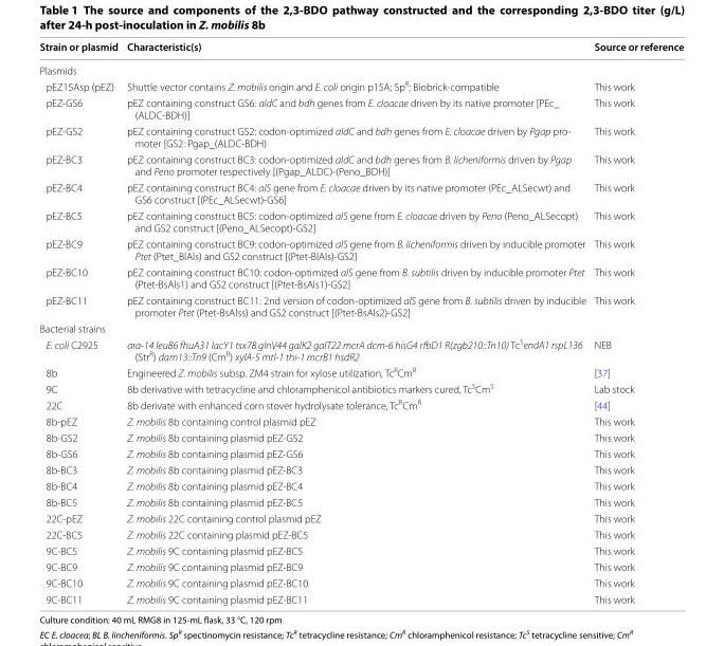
<table><thead><tr><td>Strain or plasmid</td><td>Characteristic(s)</td><td>Source or reference</td></tr></thead><tbody><tr><td colspan="3">Plasmids</td></tr><tr><td>pEZ15Asp (pEZ)</td><td>Shuttle vector contains Z. mobilis origin and E. coli origin p15A; Sp<sup>R</sup>; Biobrick‑compatible</td><td>This work</td></tr><tr><td>pEZ‑GS6</td><td>pEZ containing construct GS6: aldC and bdh genes from E. cloacae driven by its native promoter [PEc_ (ALDC‑BDH)]</td><td>This work</td></tr><tr><td>pEZ‑GS2</td><td>pEZ containing construct GS2: codon‑optimized aldC and bdh genes from E. cloacae driven by Pgap pro‑ moter [GS2: Pgap_(ALDC‑BDH)</td><td>This work</td></tr><tr><td>pEZ‑BC3</td><td>pEZ containing construct BC3: codon‑optimized aldC and bdh genes from B. licheniformis driven by Pgap and Peno promoter respectively [(Pgap_ALDC)‑(Peno_BDH)]</td><td>This work</td></tr><tr><td>pEZ‑BC4</td><td>pEZ containing construct BC4: alS gene from E. cloacae driven by its native promoter (PEc_ALSecwt) and GS6 construct [(PEc_ALSecwt)‑GS6]</td><td>This work</td></tr><tr><td>pEZ‑BC5</td><td>pEZ containing construct BC5: codon‑optimized alS gene from E. cloacae driven by Peno (Peno_ALSecopt) and GS2 construct [(Peno_ALSecopt)‑GS2]</td><td>This work</td></tr><tr><td>pEZ‑BC9</td><td>pEZ containing construct BC9: codon‑optimized alS gene from B. licheniformis driven by inducible promoter Ptet (Ptet_BlAls) and GS2 construct [(Ptet‑BlAls)‑GS2]</td><td>This work</td></tr><tr><td>pEZ‑BC10</td><td>pEZ containing construct BC10: codon‑optimized alS gene from B. subtilis driven by inducible promoter Ptet (Ptet‑BsAls1) and GS2 construct [(Ptet‑BsAls1)‑GS2]</td><td>This work</td></tr><tr><td>pEZ‑BC11</td><td>pEZ containing construct BC11: 2nd version of codon‑optimized alS gene from B. subtilis driven by inducible promoter Ptet (Ptet‑BsAlss) and GS2 construct [(Ptet‑BsAls2)‑GS2]</td><td>This work</td></tr><tr><td colspan="3">Bacterial strains</td></tr><tr><td>E. coli C2925</td><td>ara‑14 leuB6 fhuA31 lacY1 tsx78 glnV44 galK2 galT22 mcrA dcm‑6 hisG4 rfbD1 R(zgb210::Tn10) Tc<sup>S</sup>endA1 rspL136 (Str<sup>R</sup>) dam13::Tn9 (Cm<sup>R</sup>) xylA‑5 mtl‑1 thi‑1 mcrB1 hsdR2</td><td>NEB</td></tr><tr><td>8b</td><td>Engineered Z. mobilis subsp. ZM4 strain for xylose utilization, Tc<sup>R</sup>Cm<sup>R</sup></td><td>[37]</td></tr><tr><td>9C</td><td>8b derivative with tetracycline and chloramphenicol antibiotics markers cured, Tc<sup>S</sup>Cm<sup>S</sup></td><td>Lab stock</td></tr><tr><td>22C</td><td>8b derivate with enhanced corn stover hydrolysate tolerance, Tc<sup>R</sup>Cm<sup>R</sup></td><td>[44]</td></tr><tr><td>8b‑pEZ</td><td>Z. mobilis 8b containing control plasmid pEZ</td><td>This work</td></tr><tr><td>8b‑GS2</td><td>Z. mobilis 8b containing plasmid pEZ‑GS2</td><td>This work</td></tr><tr><td>8b‑GS6</td><td>Z. mobilis 8b containing plasmid pEZ‑GS6</td><td>This work</td></tr><tr><td>8b‑BC3</td><td>Z. mobilis 8b containing plasmid pEZ‑BC3</td><td>This work</td></tr><tr><td>8b‑BC4</td><td>Z. mobilis 8b containing plasmid pEZ‑BC4</td><td>This work</td></tr><tr><td>8b‑BC5</td><td>Z. mobilis 8b containing plasmid pEZ‑BC5</td><td>This work</td></tr><tr><td>22C‑pEZ</td><td>Z. mobilis 22C containing control plasmid pEZ</td><td>This work</td></tr><tr><td>22C‑BC5</td><td>Z. mobilis 22C containing plasmid pEZ‑BC5</td><td>This work</td></tr><tr><td>9C‑BC5</td><td>Z. mobilis 9C containing plasmid pEZ‑BC5</td><td>This work</td></tr><tr><td>9C‑BC9</td><td>Z. mobilis 9C containing plasmid pEZ‑BC9</td><td>This work</td></tr><tr><td>9C‑BC10</td><td>Z. mobilis 9C containing plasmid pEZ‑BC10</td><td>This work</td></tr><tr><td>9C‑BC11</td><td>Z. mobilis 9C containing plasmid pEZ‑BC11</td><td>This work</td></tr></tbody></table>